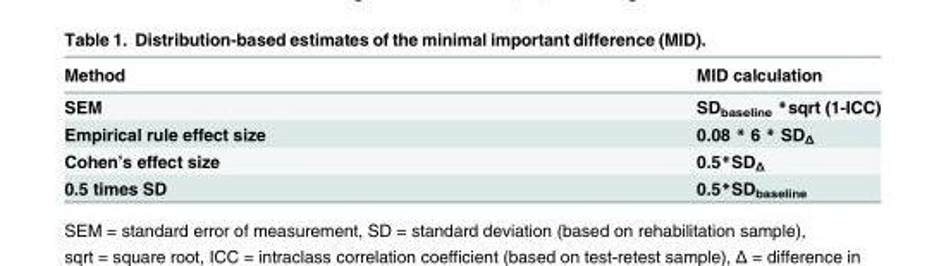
<table><thead><tr><td>Method</td><td>MID calculation</td></tr></thead><tbody><tr><td>SEM</td><td>SD<sub>baseline</sub> *sqrt (1-ICC)</td></tr><tr><td>Empirical rule effect size</td><td>0.08 * 6 * SDΔ</td></tr><tr><td>Cohen’s effect size</td><td>0.5*SDΔ</td></tr><tr><td>0.5 times SD</td><td>0.5*SD<sub>baseline</sub></td></tr></tbody></table>